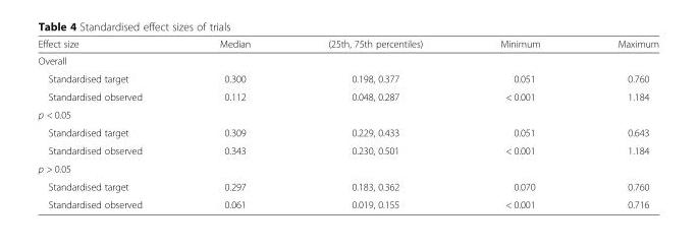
<table><thead><tr><td>Effect size</td><td>Median</td><td>(25th, 75th percentiles)</td><td>Minimum</td><td>Maximum</td></tr></thead><tbody><tr><td colspan="5">Overall</td></tr><tr><td>Standardised target</td><td>0.300</td><td>0.198, 0.377</td><td>0.051</td><td>0.760</td></tr><tr><td>Standardised observed</td><td>0.112</td><td>0.048, 0.287</td><td>&lt; 0.001</td><td>1.184</td></tr><tr><td colspan="5">p &lt; 0.05</td></tr><tr><td>Standardised target</td><td>0.309</td><td>0.229, 0.433</td><td>0.051</td><td>0.643</td></tr><tr><td>Standardised observed</td><td>0.343</td><td>0.230, 0.501</td><td>&lt; 0.001</td><td>1.184</td></tr><tr><td colspan="5">p &gt; 0.05</td></tr><tr><td>Standardised target</td><td>0.297</td><td>0.183, 0.362</td><td>0.070</td><td>0.760</td></tr><tr><td>Standardised observed</td><td>0.061</td><td>0.019, 0.155</td><td>&lt; 0.001</td><td>0.716</td></tr></tbody></table>